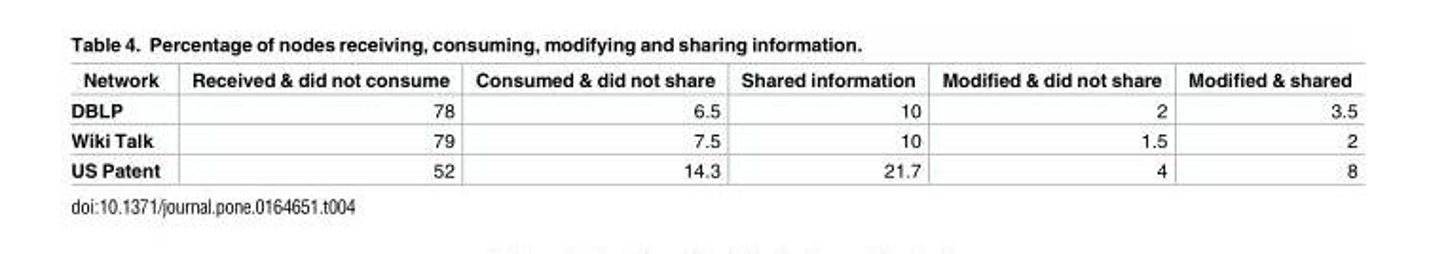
<table><thead><tr><td>Network</td><td>Received &amp; did not consume</td><td>Consumed &amp; did not share</td><td>Shared information</td><td>Modified &amp; did not share</td><td>Modified &amp; shared</td></tr></thead><tbody><tr><td>DBLP</td><td>78</td><td>6.5</td><td>10</td><td>2</td><td>3.5</td></tr><tr><td>Wiki Talk</td><td>79</td><td>7.5</td><td>10</td><td>1.5</td><td>2</td></tr><tr><td>US Patent</td><td>52</td><td>14.3</td><td>21.7</td><td>4</td><td>8</td></tr></tbody></table>